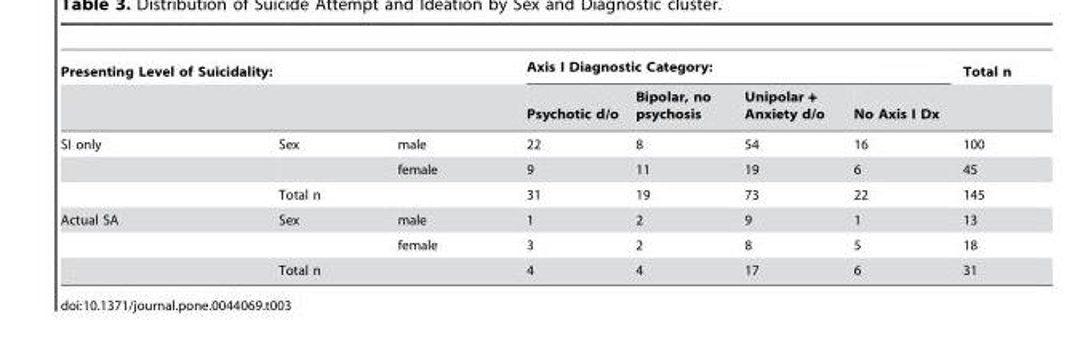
<table><thead><tr><td colspan="3">Presenting Level of Suicidality:</td><td colspan="4">Axis I Diagnostic Category:</td><td rowspan="2">Total n</td></tr><tr><td></td><td></td><td></td><td>Psychotic d/o</td><td>Bipolar, no psychosis</td><td>Unipolar + Anxiety d/o</td><td>No Axis I Dx</td></tr></thead><tbody><tr><td rowspan="3">SI only</td><td>Sex</td><td>male</td><td>22</td><td>8</td><td>54</td><td>16</td><td>100</td></tr><tr><td></td><td>female</td><td>9</td><td>11</td><td>19</td><td>6</td><td>45</td></tr><tr><td colspan="2">Total n</td><td>31</td><td>19</td><td>73</td><td>22</td><td>145</td></tr><tr><td rowspan="3">Actual SA</td><td>Sex</td><td>male</td><td>1</td><td>2</td><td>9</td><td>1</td><td>13</td></tr><tr><td></td><td>female</td><td>3</td><td>2</td><td>8</td><td>5</td><td>18</td></tr><tr><td colspan="2">Total n</td><td>4</td><td>4</td><td>17</td><td>6</td><td>31</td></tr></tbody></table>